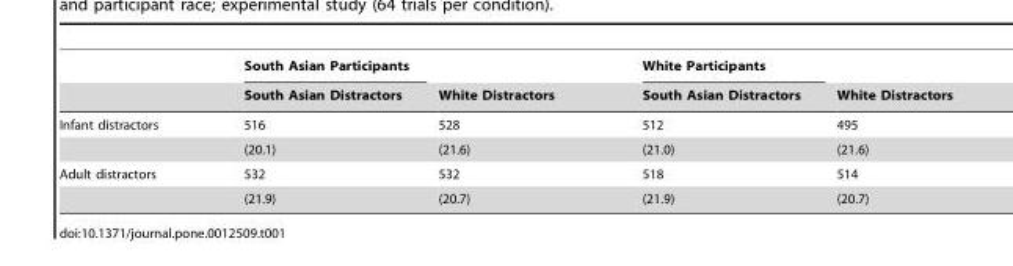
<table><thead><tr><td rowspan="2"></td><td rowspan="2">South Asian Participants South Asian Distractors</td><td rowspan="2">White Distractors</td><td rowspan="2">White Participants South Asian Distractors</td><td rowspan="2">White Distractors</td></tr><tr></tr></thead><tbody><tr><td rowspan="2">Infant distractors</td><td>516</td><td>528</td><td>512</td><td>495</td></tr><tr><td>(20.1)</td><td>(21.6)</td><td>(21.0)</td><td>(21.6)</td></tr><tr><td rowspan="2">Adult distractors</td><td>532</td><td>532</td><td>518</td><td>514</td></tr><tr><td>(21.9)</td><td>(20.7)</td><td>(21.9)</td><td>(20.7)</td></tr></tbody></table>